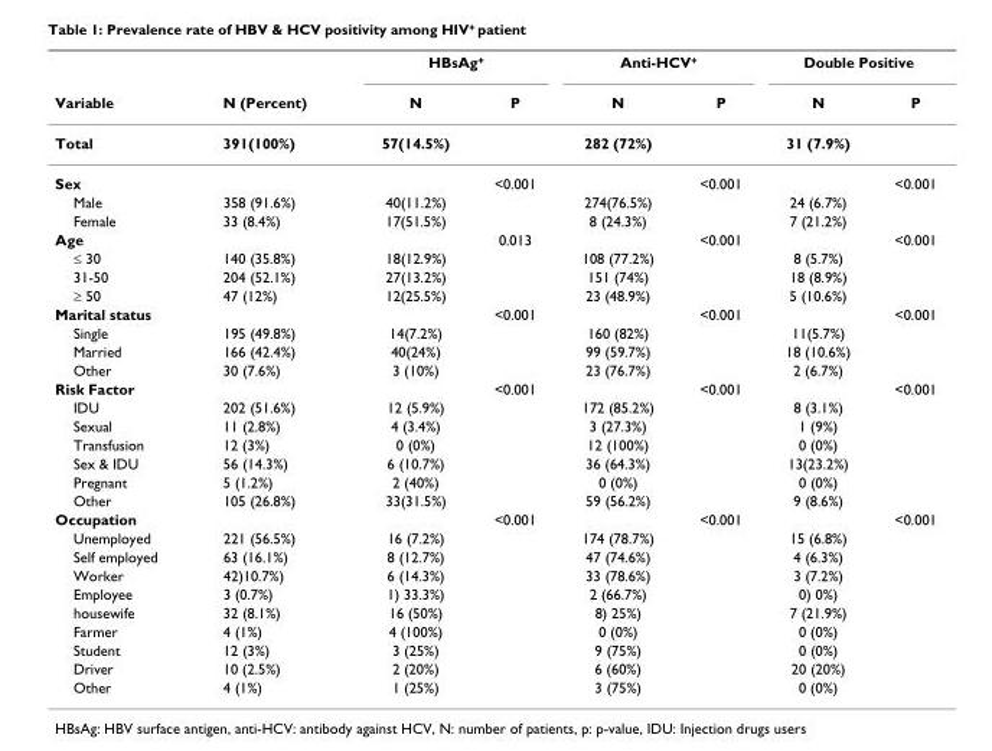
<table><thead><tr><td rowspan="2">Variable</td><td rowspan="2">N (Percent)</td><td colspan="2">HBsAg<sup>+</sup></td><td colspan="2">Anti-HCV<sup>+</sup></td><td colspan="2">Double Positive</td></tr><tr><td>N</td><td>P</td><td>N</td><td>P</td><td>N</td><td>P</td></tr></thead><tbody><tr><td>Total</td><td>391(100%)</td><td>57(14.5%)</td><td></td><td>282 (72%)</td><td></td><td>31 (7.9%)</td><td></td></tr><tr><td>Sex</td><td></td><td></td><td>&lt;0.001</td><td></td><td>&lt;0.001</td><td></td><td>&lt;0.001</td></tr><tr><td>Male</td><td>358 (91.6%)</td><td>40(11.2%)</td><td></td><td>274(76.5%)</td><td></td><td>24 (6.7%)</td><td></td></tr><tr><td>Female</td><td>33 (8.4%)</td><td>17(51.5%)</td><td></td><td>8 (24.3%)</td><td></td><td>7 (21.2%)</td><td></td></tr><tr><td>Age</td><td></td><td></td><td>0.013</td><td></td><td>&lt;0.001</td><td></td><td>&lt;0.001</td></tr><tr><td>≤ 30</td><td>140 (35.8%)</td><td>18(12.9%)</td><td></td><td>108 (77.2%)</td><td></td><td>8 (5.7%)</td><td></td></tr><tr><td>31-50</td><td>204 (52.1%)</td><td>27(13.2%)</td><td></td><td>151 (74%)</td><td></td><td>18 (8.9%)</td><td></td></tr><tr><td>≥ 50</td><td>47 (12%)</td><td>12(25.5%)</td><td></td><td>23 (48.9%)</td><td></td><td>5 (10.6%)</td><td></td></tr><tr><td>Marital status</td><td></td><td></td><td>&lt;0.001</td><td></td><td>&lt;0.001</td><td></td><td>&lt;0.001</td></tr><tr><td>Single</td><td>195 (49.8%)</td><td>14(7.2%)</td><td></td><td>160 (82%)</td><td></td><td>11(5.7%)</td><td></td></tr><tr><td>Married</td><td>166 (42.4%)</td><td>40(24%)</td><td></td><td>99 (59.7%)</td><td></td><td>18 (10.6%)</td><td></td></tr><tr><td>Other</td><td>30 (7.6%)</td><td>3 (10%)</td><td></td><td>23 (76.7%)</td><td></td><td>2 (6.7%)</td><td></td></tr><tr><td>Risk Factor</td><td></td><td></td><td>&lt;0.001</td><td></td><td>&lt;0.001</td><td></td><td>&lt;0.001</td></tr><tr><td>IDU</td><td>202 (51.6%)</td><td>12 (5.9%)</td><td></td><td>172 (85.2%)</td><td></td><td>8 (3.1%)</td><td></td></tr><tr><td>Sexual</td><td>11 (2.8%)</td><td>4 (3.4%)</td><td></td><td>3 (27.3%)</td><td></td><td>1 (9%)</td><td></td></tr><tr><td>Transfusion</td><td>12 (3%)</td><td>0 (0%)</td><td></td><td>12 (100%)</td><td></td><td>0 (0%)</td><td></td></tr><tr><td>Sex &amp; IDU</td><td>56 (14.3%)</td><td>6 (10.7%)</td><td></td><td>36 (64.3%)</td><td></td><td>13(23.2%)</td><td></td></tr><tr><td>Pregnant</td><td>5 (1.2%)</td><td>2 (40%)</td><td></td><td>0 (0%)</td><td></td><td>0 (0%)</td><td></td></tr><tr><td>Other</td><td>105 (26.8%)</td><td>33(31.5%)</td><td></td><td>59 (56.2%)</td><td></td><td>9 (8.6%)</td><td></td></tr><tr><td>Occupation</td><td></td><td></td><td>&lt;0.001</td><td></td><td>&lt;0.001</td><td></td><td>&lt;0.001</td></tr><tr><td>Unemployed</td><td>221 (56.5%)</td><td>16 (7.2%)</td><td></td><td>174 (78.7%)</td><td></td><td>15 (6.8%)</td><td></td></tr><tr><td>Self employed</td><td>63 (16.1%)</td><td>8 (12.7%)</td><td></td><td>47 (74.6%)</td><td></td><td>4 (6.3%)</td><td></td></tr><tr><td>Worker</td><td>42)10.7%)</td><td>6 (14.3%)</td><td></td><td>33 (78.6%)</td><td></td><td>3 (7.2%)</td><td></td></tr><tr><td>Employee</td><td>3 (0.7%)</td><td>1) 33.3%)</td><td></td><td>2 (66.7%)</td><td></td><td>0) 0%)</td><td></td></tr><tr><td>housewife</td><td>32 (8.1%)</td><td>16 (50%)</td><td></td><td>8) 25%)</td><td></td><td>7 (21.9%)</td><td></td></tr><tr><td>Farmer</td><td>4 (1%)</td><td>4 (100%)</td><td></td><td>0 (0%)</td><td></td><td>0 (0%)</td><td></td></tr><tr><td>Student</td><td>12 (3%)</td><td>3 (25%)</td><td></td><td>9 (75%)</td><td></td><td>0 (0%)</td><td></td></tr><tr><td>Driver</td><td>10 (2.5%)</td><td>2 (20%)</td><td></td><td>6 (60%)</td><td></td><td>20 (20%)</td><td></td></tr><tr><td>Other</td><td>4 (1%)</td><td>1 (25%)</td><td></td><td>3 (75%)</td><td></td><td>0 (0%)</td><td></td></tr></tbody></table>